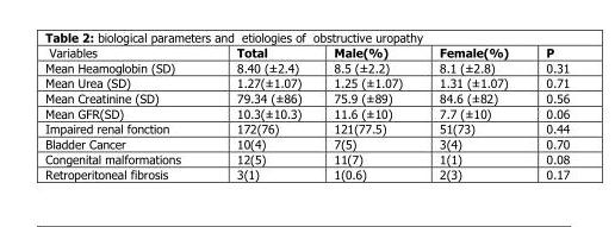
<table><thead><tr><td>Variables</td><td>Total</td><td>Male(%)</td><td>Female(%)</td><td>P</td></tr></thead><tbody><tr><td>Mean Heamoglobin (SD)</td><td>8.40 (±2.4)</td><td>8.5 (±2.2)</td><td>8.1 (±2.8)</td><td>0.31</td></tr><tr><td>Mean Urea (SD)</td><td>1.27(±1.07)</td><td>1.25 (±1.07)</td><td>1.31 (±1.07)</td><td>0.71</td></tr><tr><td>Mean Creatinine (SD)</td><td>79.34 (±86)</td><td>75.9 (±89)</td><td>84.6 (±82)</td><td>0.56</td></tr><tr><td>Mean GFR(SD)</td><td>10.3(±10.3)</td><td>11.6 (±10)</td><td>7.7 (±10)</td><td>0.06</td></tr><tr><td>Impaired renal fonction</td><td>172(76)</td><td>121(77.5)</td><td>51(73)</td><td>0.44</td></tr><tr><td>Bladder Cancer</td><td>10(4)</td><td>7(5)</td><td>3(4)</td><td>0.70</td></tr><tr><td>Congenital malformations</td><td>12(5)</td><td>11(7)</td><td>1(1)</td><td>0.08</td></tr><tr><td>Retroperitoneal fibrosis</td><td>3(1)</td><td>1(0.6)</td><td>2(3)</td><td>0.17</td></tr></tbody></table>